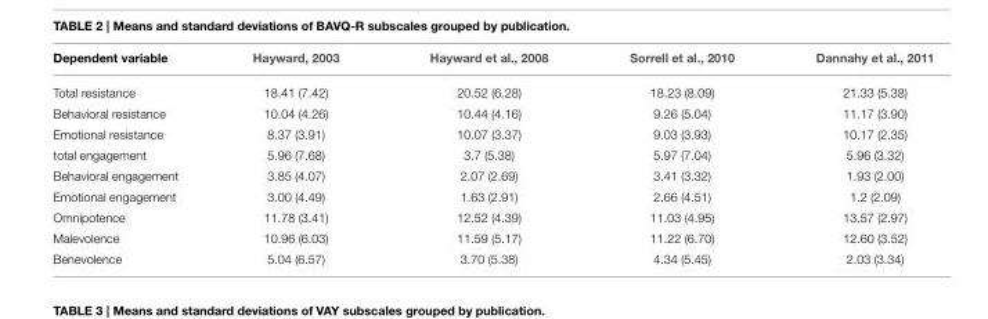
<table><thead><tr><td>Dependent variable</td><td>Hayward, 2003</td><td>Hayward et al., 2008</td><td>Sorrell et al., 2010</td><td>Dannahy et al., 2011</td></tr></thead><tbody><tr><td>Total resistance</td><td>18.41 (7.42)</td><td>20.52 (6.28)</td><td>18.23 (8.09)</td><td>21.33 (5.38)</td></tr><tr><td>Behavioral resistance</td><td>10.04 (4.26)</td><td>10.44 (4.16)</td><td>9.26 (5.04)</td><td>11.17 (3.90)</td></tr><tr><td>Emotional resistance</td><td>8.37 (3.91)</td><td>10.07 (3.37)</td><td>9.03 (3.93)</td><td>10.17 (2.35)</td></tr><tr><td>total engagement</td><td>5.96 (7.68)</td><td>3.7 (5.38)</td><td>5.97 (7.04)</td><td>5.96 (3.32)</td></tr><tr><td>Behavioral engagement</td><td>3.85 (4.07)</td><td>2.07 (2.69)</td><td>3.41 (3.32)</td><td>1.93 (2.00)</td></tr><tr><td>Emotional engagement</td><td>3.00 (4.49)</td><td>1.63 (2.91)</td><td>2.66 (4.51)</td><td>1.2 (2.09)</td></tr><tr><td>Omnipotence</td><td>11.78 (3.41)</td><td>12.52 (4.39)</td><td>11.03 (4.95)</td><td>13.57 (2.97)</td></tr><tr><td>Malevolence</td><td>10.96 (6.03)</td><td>11.59 (5.17)</td><td>11.22 (6.70)</td><td>12.60 (3.52)</td></tr><tr><td>Benevolence</td><td>5.04 (6.57)</td><td>3.70 (5.38)</td><td>4.34 (5.45)</td><td>2.03 (3.34)</td></tr></tbody></table>